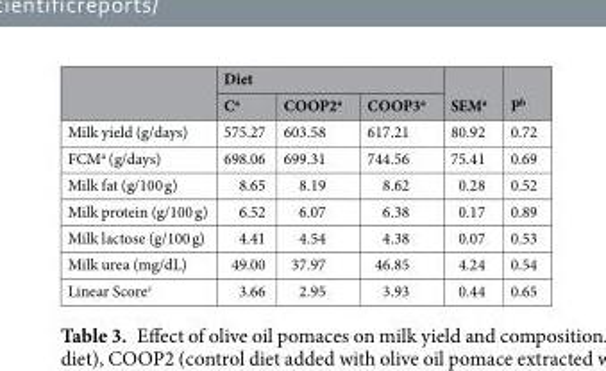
<table><thead><tr><td rowspan="2"></td><td colspan="3">Diet</td><td rowspan="2">SEM<sup>a</sup></td><td rowspan="2">P<sup>b</sup></td></tr><tr><td>C<sup>a</sup></td><td>COOP2<sup>a</sup></td><td>COOP3<sup>a</sup></td></tr></thead><tbody><tr><td>Milk yield (g/days)</td><td>575.27</td><td>603.58</td><td>617.21</td><td>80.92</td><td>0.72</td></tr><tr><td>FCM<sup>a</sup> (g/days)</td><td>698.06</td><td>699.31</td><td>744.56</td><td>75.41</td><td>0.69</td></tr><tr><td>Milk fat (g/100 g)</td><td>8.65</td><td>8.19</td><td>8.62</td><td>0.28</td><td>0.52</td></tr><tr><td>Milk protein (g/100 g)</td><td>6.52</td><td>6.07</td><td>6.38</td><td>0.17</td><td>0.89</td></tr><tr><td>Milk lactose (g/100 g)</td><td>4.41</td><td>4.54</td><td>4.38</td><td>0.07</td><td>0.53</td></tr><tr><td>Milk urea (mg/dL)</td><td>49.00</td><td>37.97</td><td>46.85</td><td>4.24</td><td>0.54</td></tr><tr><td>Linear Score<sup>c</sup></td><td>3.66</td><td>2.95</td><td>3.93</td><td>0.44</td><td>0.65</td></tr></tbody></table>